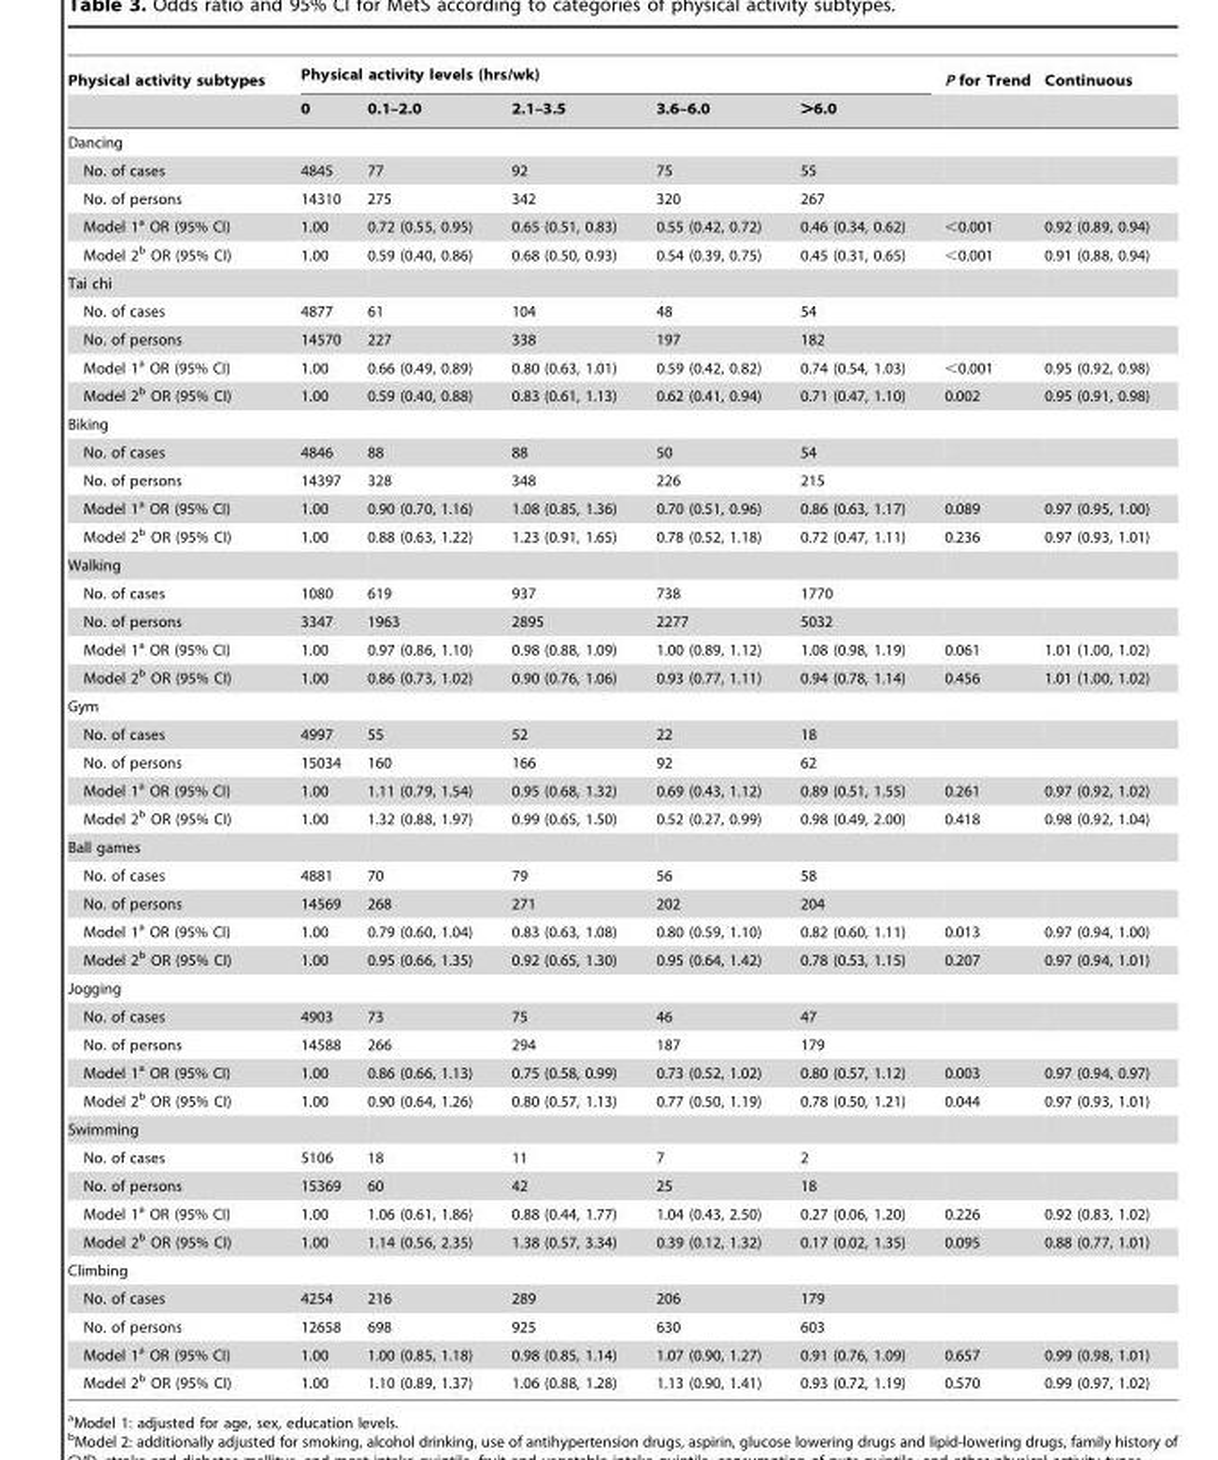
<table><thead><tr><td rowspan="2">Physical activity subtypes</td><td colspan="5">Physical activity levels (hrs/wk)</td><td rowspan="2">P for Trend</td><td rowspan="2">Continuous</td></tr><tr><td>0</td><td>0.1–2.0</td><td>2.1–3.5</td><td>3.6–6.0</td><td>&gt;6.0</td></tr></thead><tbody><tr><td colspan="8">Dancing</td></tr><tr><td>No. of cases</td><td>4845</td><td>77</td><td>92</td><td>75</td><td>55</td><td></td><td></td></tr><tr><td>No. of persons</td><td>14310</td><td>275</td><td>342</td><td>320</td><td>267</td><td></td><td></td></tr><tr><td>Model 1<sup>a</sup> OR (95% CI)</td><td>1.00</td><td>0.72 (0.55, 0.95)</td><td>0.65 (0.51, 0.83)</td><td>0.55 (0.42, 0.72)</td><td>0.46 (0.34, 0.62)</td><td>&lt;0.001</td><td>0.92 (0.89, 0.94)</td></tr><tr><td>Model 2<sup>b</sup> OR (95% CI)</td><td>1.00</td><td>0.59 (0.40, 0.86)</td><td>0.68 (0.50, 0.93)</td><td>0.54 (0.39, 0.75)</td><td>0.45 (0.31, 0.65)</td><td>&lt;0.001</td><td>0.91 (0.88, 0.94)</td></tr><tr><td colspan="8">Tai chi</td></tr><tr><td>No. of cases</td><td>4877</td><td>61</td><td>104</td><td>48</td><td>54</td><td></td><td></td></tr><tr><td>No. of persons</td><td>14570</td><td>227</td><td>338</td><td>197</td><td>182</td><td></td><td></td></tr><tr><td>Model 1<sup>a</sup> OR (95% CI)</td><td>1.00</td><td>0.66 (0.49, 0.89)</td><td>0.80 (0.63, 1.01)</td><td>0.59 (0.42, 0.82)</td><td>0.74 (0.54, 1.03)</td><td>&lt;0.001</td><td>0.95 (0.92, 0.98)</td></tr><tr><td>Model 2<sup>b</sup> OR (95% CI)</td><td>1.00</td><td>0.59 (0.40, 0.88)</td><td>0.83 (0.61, 1.13)</td><td>0.62 (0.41, 0.94)</td><td>0.71 (0.47, 1.10)</td><td>0.002</td><td>0.95 (0.91, 0.98)</td></tr><tr><td colspan="8">Biking</td></tr><tr><td>No. of cases</td><td>4846</td><td>88</td><td>88</td><td>50</td><td>54</td><td></td><td></td></tr><tr><td>No. of persons</td><td>14397</td><td>328</td><td>348</td><td>226</td><td>215</td><td></td><td></td></tr><tr><td>Model 1<sup>a</sup> OR (95% CI)</td><td>1.00</td><td>0.90 (0.70, 1.16)</td><td>1.08 (0.85, 1.36)</td><td>0.70 (0.51, 0.96)</td><td>0.86 (0.63, 1.17)</td><td>0.089</td><td>0.97 (0.95, 1.00)</td></tr><tr><td>Model 2<sup>b</sup> OR (95% CI)</td><td>1.00</td><td>0.88 (0.63, 1.22)</td><td>1.23 (0.91, 1.65)</td><td>0.78 (0.52, 1.18)</td><td>0.72 (0.47, 1.11)</td><td>0.236</td><td>0.97 (0.93, 1.01)</td></tr><tr><td colspan="8">Walking</td></tr><tr><td>No. of cases</td><td>1080</td><td>619</td><td>937</td><td>738</td><td>1770</td><td></td><td></td></tr><tr><td>No. of persons</td><td>3347</td><td>1963</td><td>2895</td><td>2277</td><td>5032</td><td></td><td></td></tr><tr><td>Model 1<sup>a</sup> OR (95% CI)</td><td>1.00</td><td>0.97 (0.86, 1.10)</td><td>0.98 (0.88, 1.09)</td><td>1.00 (0.89, 1.12)</td><td>1.08 (0.98, 1.19)</td><td>0.061</td><td>1.01 (1.00, 1.02)</td></tr><tr><td>Model 2<sup>b</sup> OR (95% CI)</td><td>1.00</td><td>0.86 (0.73, 1.02)</td><td>0.90 (0.76, 1.06)</td><td>0.93 (0.77, 1.11)</td><td>0.94 (0.78, 1.14)</td><td>0.456</td><td>1.01 (1.00, 1.02)</td></tr><tr><td colspan="8">Gym</td></tr><tr><td>No. of cases</td><td>4997</td><td>55</td><td>52</td><td>22</td><td>18</td><td></td><td></td></tr><tr><td>No. of persons</td><td>15034</td><td>160</td><td>166</td><td>92</td><td>62</td><td></td><td></td></tr><tr><td>Model 1<sup>a</sup> OR (95% CI)</td><td>1.00</td><td>1.11 (0.79, 1.54)</td><td>0.95 (0.68, 1.32)</td><td>0.69 (0.43, 1.12)</td><td>0.89 (0.51, 1.55)</td><td>0.261</td><td>0.97 (0.92, 1.02)</td></tr><tr><td>Model 2<sup>b</sup> OR (95% CI)</td><td>1.00</td><td>1.32 (0.88, 1.97)</td><td>0.99 (0.65, 1.50)</td><td>0.52 (0.27, 0.99)</td><td>0.98 (0.49, 2.00)</td><td>0.418</td><td>0.98 (0.92, 1.04)</td></tr><tr><td colspan="8">Ball games</td></tr><tr><td>No. of cases</td><td>4881</td><td>70</td><td>79</td><td>56</td><td>58</td><td></td><td></td></tr><tr><td>No. of persons</td><td>14569</td><td>268</td><td>271</td><td>202</td><td>204</td><td></td><td></td></tr><tr><td>Model 1<sup>a</sup> OR (95% CI)</td><td>1.00</td><td>0.79 (0.60, 1.04)</td><td>0.83 (0.63, 1.08)</td><td>0.80 (0.59, 1.10)</td><td>0.82 (0.60, 1.11)</td><td>0.013</td><td>0.97 (0.94, 1.00)</td></tr><tr><td>Model 2<sup>b</sup> OR (95% CI)</td><td>1.00</td><td>0.95 (0.66, 1.35)</td><td>0.92 (0.65, 1.30)</td><td>0.95 (0.64, 1.42)</td><td>0.78 (0.53, 1.15)</td><td>0.207</td><td>0.97 (0.94, 1.01)</td></tr><tr><td colspan="8">Jogging</td></tr><tr><td>No. of cases</td><td>4903</td><td>73</td><td>75</td><td>46</td><td>47</td><td></td><td></td></tr><tr><td>No. of persons</td><td>14588</td><td>266</td><td>294</td><td>187</td><td>179</td><td></td><td></td></tr><tr><td>Model 1<sup>a</sup> OR (95% CI)</td><td>1.00</td><td>0.86 (0.66, 1.13)</td><td>0.75 (0.58, 0.99)</td><td>0.73 (0.52, 1.02)</td><td>0.80 (0.57, 1.12)</td><td>0.003</td><td>0.97 (0.94, 0.97)</td></tr><tr><td>Model 2<sup>b</sup> OR (95% CI)</td><td>1.00</td><td>0.90 (0.64, 1.26)</td><td>0.80 (0.57, 1.13)</td><td>0.77 (0.50, 1.19)</td><td>0.78 (0.50, 1.21)</td><td>0.044</td><td>0.97 (0.93, 1.01)</td></tr><tr><td colspan="8">Swimming</td></tr><tr><td>No. of cases</td><td>5106</td><td>18</td><td>11</td><td>7</td><td>2</td><td></td><td></td></tr><tr><td>No. of persons</td><td>15369</td><td>60</td><td>42</td><td>25</td><td>18</td><td></td><td></td></tr><tr><td>Model 1<sup>a</sup> OR (95% CI)</td><td>1.00</td><td>1.06 (0.61, 1.86)</td><td>0.88 (0.44, 1.77)</td><td>1.04 (0.43, 2.50)</td><td>0.27 (0.06, 1.20)</td><td>0.226</td><td>0.92 (0.83, 1.02)</td></tr><tr><td>Model 2<sup>b</sup> OR (95% CI)</td><td>1.00</td><td>1.14 (0.56, 2.35)</td><td>1.38 (0.57, 3.34)</td><td>0.39 (0.12, 1.32)</td><td>0.17 (0.02, 1.35)</td><td>0.095</td><td>0.88 (0.77, 1.01)</td></tr><tr><td colspan="8">Climbing</td></tr><tr><td>No. of cases</td><td>4254</td><td>216</td><td>289</td><td>206</td><td>179</td><td></td><td></td></tr><tr><td>No. of persons</td><td>12658</td><td>698</td><td>925</td><td>630</td><td>603</td><td></td><td></td></tr><tr><td>Model 1<sup>a</sup> OR (95% CI)</td><td>1.00</td><td>1.00 (0.85, 1.18)</td><td>0.98 (0.85, 1.14)</td><td>1.07 (0.90, 1.27)</td><td>0.91 (0.76, 1.09)</td><td>0.657</td><td>0.99 (0.98, 1.01)</td></tr><tr><td>Model 2<sup>b</sup> OR (95% CI)</td><td>1.00</td><td>1.10 (0.89, 1.37)</td><td>1.06 (0.88, 1.28)</td><td>1.13 (0.90, 1.41)</td><td>0.93 (0.72, 1.19)</td><td>0.570</td><td>0.99 (0.97, 1.02)</td></tr></tbody></table>